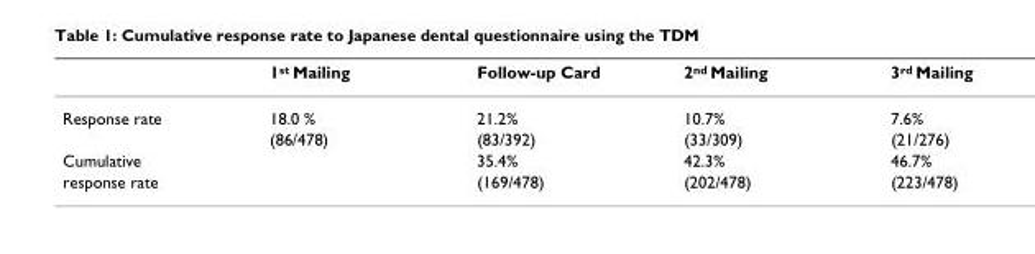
<table><thead><tr><td></td><td>1<sup>st</sup> Mailing</td><td>Follow-up Card</td><td>2<sup>nd</sup> Mailing</td><td>3<sup>rd</sup> Mailing</td></tr></thead><tbody><tr><td rowspan="2">Response rate</td><td>18.0 %</td><td>21.2%</td><td>10.7%</td><td>7.6%</td></tr><tr><td>(86/478)</td><td>(83/392)</td><td>(33/309)</td><td>(21/276)</td></tr><tr><td>Cumulative</td><td></td><td>35.4%</td><td>42.3%</td><td>46.7%</td></tr><tr><td>response rate</td><td></td><td>(169/478)</td><td>(202/478)</td><td>(223/478)</td></tr></tbody></table>